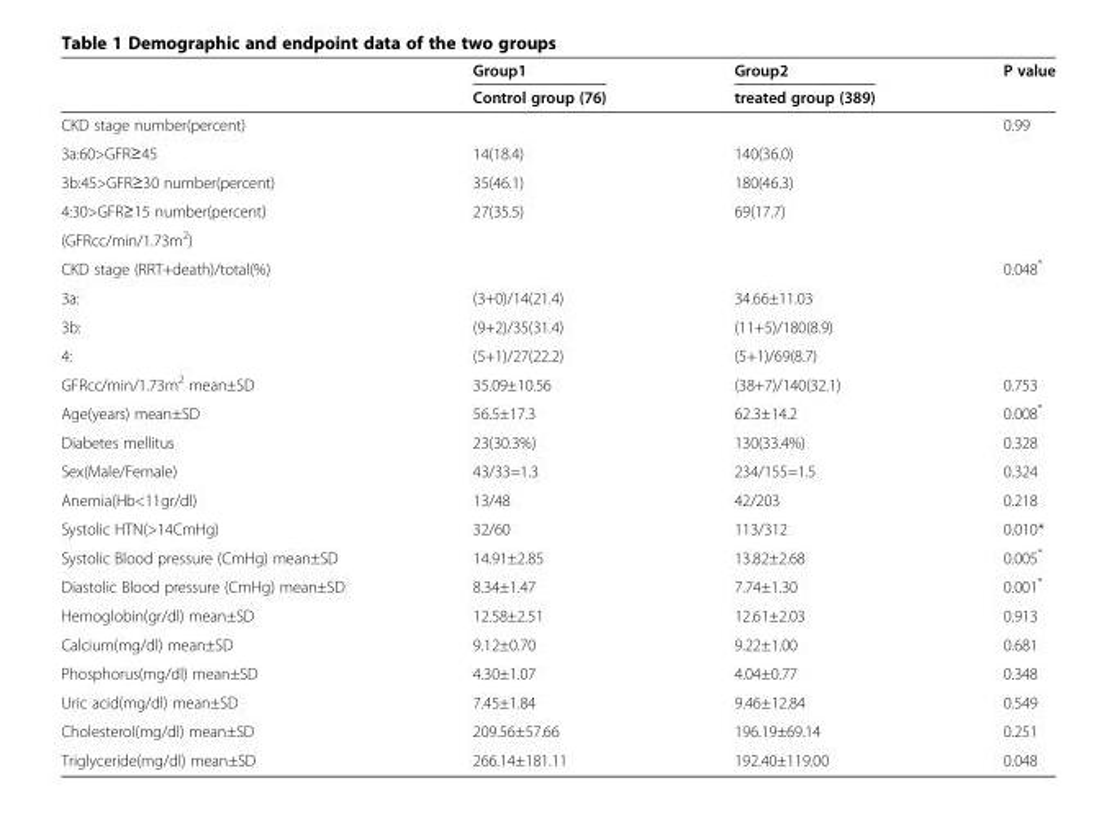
<table><thead><tr><td rowspan="2"></td><td rowspan="2">Group1 Control group (76)</td><td rowspan="2">Group2 treated group (389)</td><td rowspan="2">P value</td></tr><tr></tr></thead><tbody><tr><td>CKD stage number(percent)</td><td></td><td></td><td>0.99</td></tr><tr><td>3a:60&gt;GFR≥45</td><td>14(18.4)</td><td>140(36.0)</td><td></td></tr><tr><td>3b:45&gt;GFR≥30 number(percent)</td><td>35(46.1)</td><td>180(46.3)</td><td></td></tr><tr><td>4:30&gt;GFR≥15 number(percent)</td><td>27(35.5)</td><td>69(17.7)</td><td></td></tr><tr><td colspan="4">(GFRcc/min/1.73m<sup>2</sup>)</td></tr><tr><td>CKD stage (RRT+death)/total(%)</td><td></td><td></td><td>0.048*</td></tr><tr><td>3a:</td><td>(3+0)/14(21.4)</td><td>34.66±11.03</td><td></td></tr><tr><td>3b:</td><td>(9+2)/35(31.4)</td><td>(11+5)/180(8.9)</td><td></td></tr><tr><td>4:</td><td>(5+1)/27(22.2)</td><td>(5+1)/69(8.7)</td><td></td></tr><tr><td>GFRcc/min/1.73m<sup>2</sup> mean±SD</td><td>35.09±10.56</td><td>(38+7)/140(32.1)</td><td>0.753</td></tr><tr><td>Age(years) mean±SD</td><td>56.5±17.3</td><td>62.3±14.2</td><td>0.008*</td></tr><tr><td>Diabetes mellitus</td><td>23(30.3%)</td><td>130(33.4%)</td><td>0.328</td></tr><tr><td>Sex(Male/Female)</td><td>43/33=1.3</td><td>234/155=1.5</td><td>0.324</td></tr><tr><td>Anemia(Hb&lt;11gr/dl)</td><td>13/48</td><td>42/203</td><td>0.218</td></tr><tr><td>Systolic HTN(&gt;14CmHg)</td><td>32/60</td><td>113/312</td><td>0.010*</td></tr><tr><td>Systolic Blood pressure (CmHg) mean±SD</td><td>14.91±2.85</td><td>13.82±2.68</td><td>0.005*</td></tr><tr><td>Diastolic Blood pressure (CmHg) mean±SD</td><td>8.34±1.47</td><td>7.74±1.30</td><td>0.001*</td></tr><tr><td>Hemoglobin(gr/dl) mean±SD</td><td>12.58±2.51</td><td>12.61±2.03</td><td>0.913</td></tr><tr><td>Calcium(mg/dl) mean±SD</td><td>9.12±0.70</td><td>9.22±1.00</td><td>0.681</td></tr><tr><td>Phosphorus(mg/dl) mean±SD</td><td>4.30±1.07</td><td>4.04±0.77</td><td>0.348</td></tr><tr><td>Uric acid(mg/dl) mean±SD</td><td>7.45±1.84</td><td>9.46±12.84</td><td>0.549</td></tr><tr><td>Cholesterol(mg/dl) mean±SD</td><td>209.56±57.66</td><td>196.19±69.14</td><td>0.251</td></tr><tr><td>Triglyceride(mg/dl) mean±SD</td><td>266.14±181.11</td><td>192.40±119.00</td><td>0.048</td></tr></tbody></table>